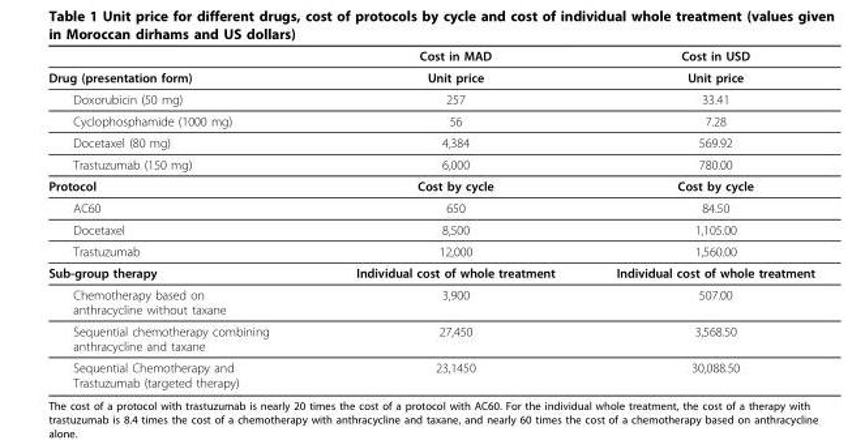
<table><thead><tr><td></td><td>Cost in MAD</td><td>Cost in USD</td></tr></thead><tbody><tr><td>Drug (presentation form)</td><td>Unit price</td><td>Unit price</td></tr><tr><td>Doxorubicin (50 mg)</td><td>257</td><td>33.41</td></tr><tr><td>Cyclophosphamide (1000 mg)</td><td>56</td><td>7.28</td></tr><tr><td>Docetaxel (80 mg)</td><td>4,384</td><td>569.92</td></tr><tr><td>Trastuzumab (150 mg)</td><td>6,000</td><td>780.00</td></tr><tr><td>Protocol</td><td>Cost by cycle</td><td>Cost by cycle</td></tr><tr><td>AC60</td><td>650</td><td>84.50</td></tr><tr><td>Docetaxel</td><td>8,500</td><td>1,105.00</td></tr><tr><td>Trastuzumab</td><td>12,000</td><td>1,560.00</td></tr><tr><td>Sub-group therapy</td><td>Individual cost of whole treatment</td><td>Individual cost of whole treatment</td></tr><tr><td>Chemotherapy based on anthracycline without taxane</td><td>3,900</td><td>507.00</td></tr><tr><td>Sequential chemotherapy combining anthracycline and taxane</td><td>27,450</td><td>3,568.50</td></tr><tr><td>Sequential Chemotherapy and Trastuzumab (targeted therapy)</td><td>23,1450</td><td>30,088.50</td></tr></tbody></table>